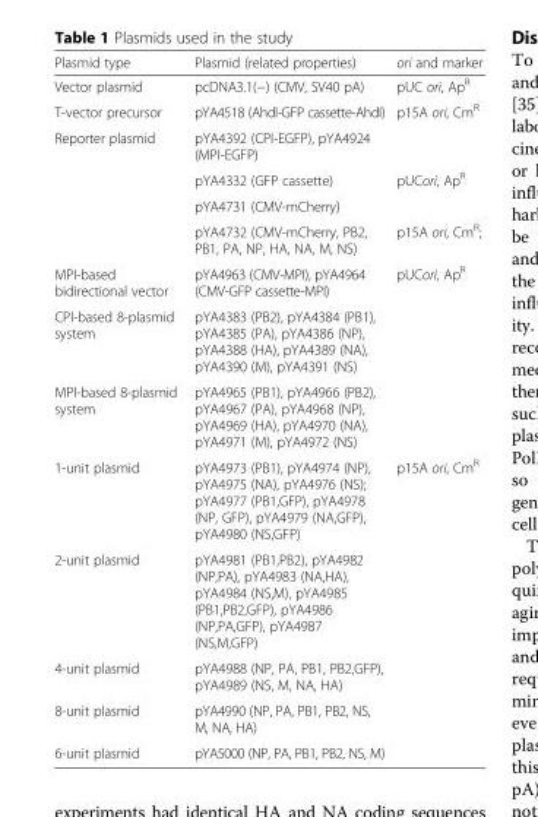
<table><thead><tr><td>Plasmid type</td><td>Plasmid (related properties)</td><td>ori and marker</td></tr></thead><tbody><tr><td>Vector plasmid</td><td>pcDNA3.1(−) (CMV, SV40 pA)</td><td>pUC ori, Ap<sup>R</sup></td></tr><tr><td>T-vector precursor</td><td>pYA4518 (AhdI-GFP cassette-AhdI)</td><td rowspan="2">p15A ori, Cm<sup>R</sup></td></tr><tr><td rowspan="4">Reporter plasmid</td><td>pYA4392 (CPI-EGFP), pYA4924 (MPI-EGFP)</td></tr><tr><td>pYA4332 (GFP cassette)</td><td rowspan="2">pUCori, Ap<sup>R</sup></td></tr><tr><td>pYA4731 (CMV-mCherry)</td></tr><tr><td>pYA4732 (CMV-mCherry, PB2, PB1, PA, NP, HA, NA, M, NS)</td><td>p15A ori, Cm<sup>R</sup>;</td></tr><tr><td>MPI-based bidirectional vector</td><td>pYA4963 (CMV-MPI), pYA4964 (CMV-GFP cassette-MPI)</td><td rowspan="3">pUCori, Ap<sup>R</sup></td></tr><tr><td>CPI-based 8-plasmid system</td><td>pYA4383 (PB2), pYA4384 (PB1), pYA4385 (PA), pYA4386 (NP), pYA4388 (HA), pYA4389 (NA), pYA4390 (M), pYA4391 (NS)</td></tr><tr><td>MPI-based 8-plasmid system</td><td>pYA4965 (PB1), pYA4966 (PB2), pYA4967 (PA), pYA4968 (NP), pYA4969 (HA), pYA4970 (NA), pYA4971 (M), pYA4972 (NS)</td></tr><tr><td>1-unit plasmid</td><td>pYA4973 (PB1), pYA4974 (NP), pYA4975 (NA), pYA4976 (NS); pYA4977 (PB1,GFP), pYA4978 (NP, GFP), pYA4979 (NA,GFP), pYA4980 (NS,GFP)</td><td>p15A ori, Cm<sup>R</sup></td></tr><tr><td>2-unit plasmid</td><td>pYA4981 (PB1,PB2), pYA4982 (NP,PA), pYA4983 (NA,HA), pYA4984 (NS,M), pYA4985 (PB1,PB2,GFP), pYA4986 (NP,PA,GFP), pYA4987 (NS,M,GFP)</td><td></td></tr><tr><td>4-unit plasmid</td><td>pYA4988 (NP, PA, PB1, PB2,GFP), pYA4989 (NS, M, NA, HA)</td><td></td></tr><tr><td>8-unit plasmid</td><td>pYA4990 (NP, PA, PB1, PB2, NS, M, NA, HA)</td><td></td></tr><tr><td>6-unit plasmid</td><td>pYA5000 (NP, PA, PB1, PB2, NS, M)</td><td></td></tr></tbody></table>